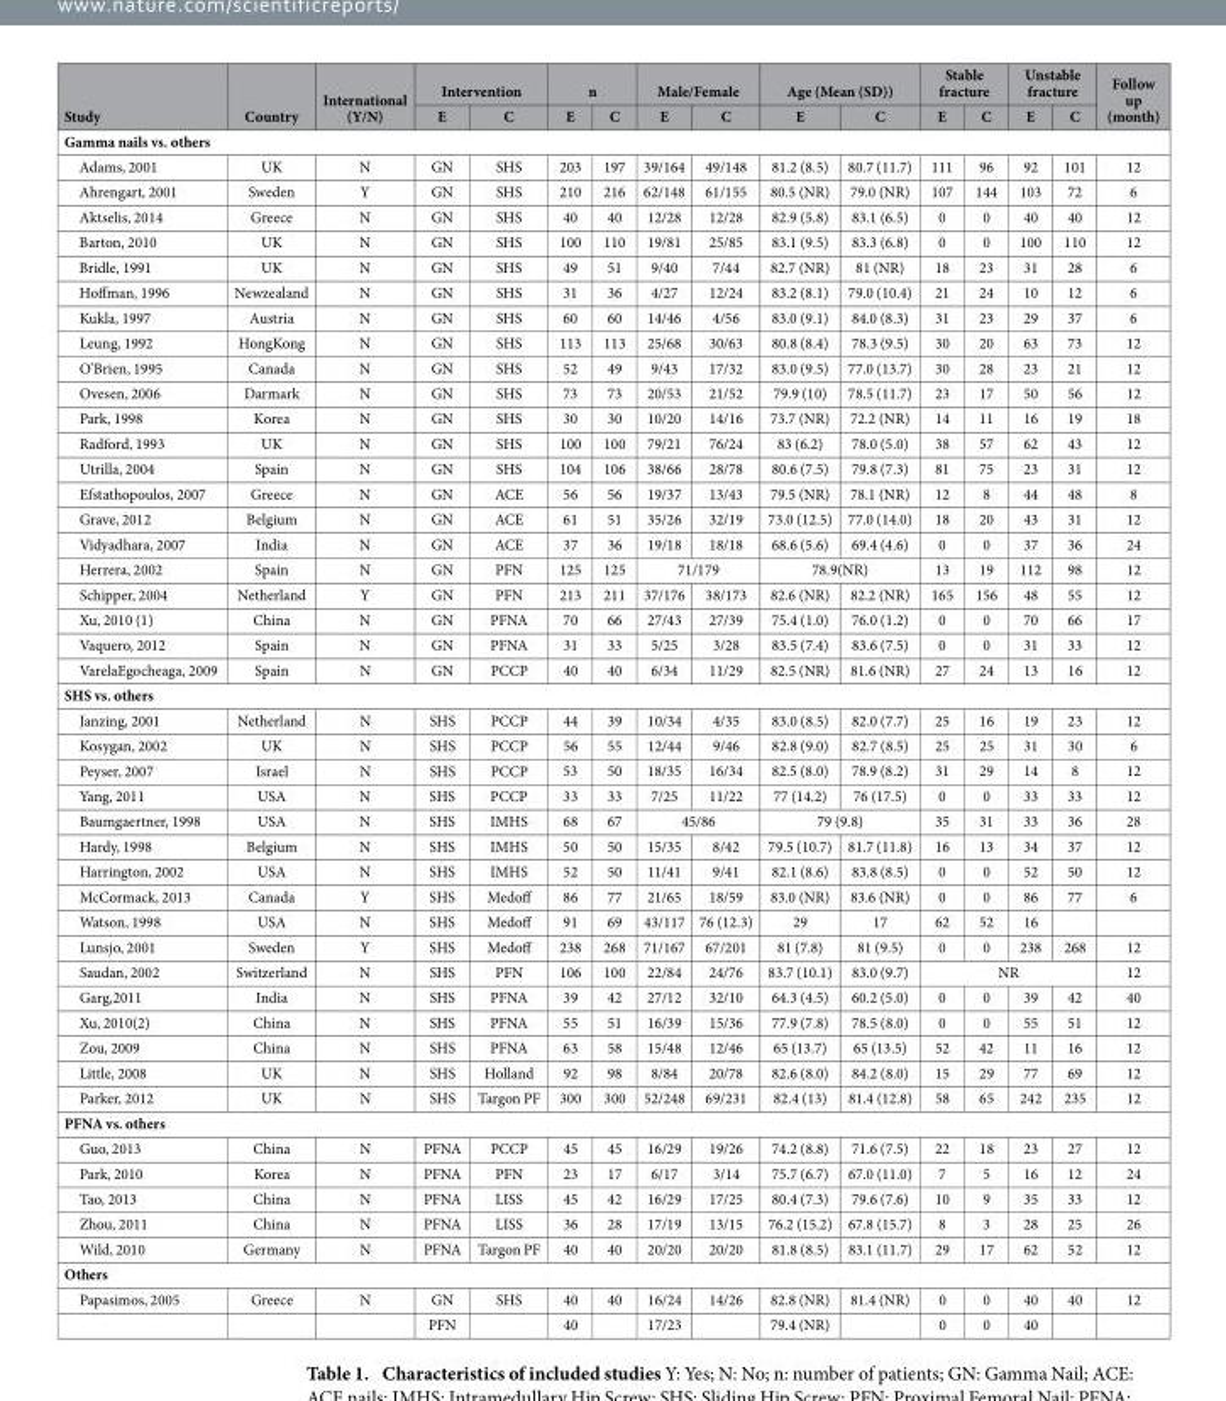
<table><thead><tr><td rowspan="2">Study</td><td rowspan="2">Country</td><td rowspan="2">International (Y/N)</td><td colspan="2">Intervention</td><td colspan="2">n</td><td colspan="2">Male/Female</td><td colspan="2">Age (Mean (SD))</td><td colspan="2">Stable fracture</td><td colspan="2">Unstable fracture</td><td rowspan="2">Follow up (month)</td></tr><tr><td>E</td><td>C</td><td>E</td><td>C</td><td>E</td><td>C</td><td>E</td><td>C</td><td>E</td><td>C</td><td>E</td><td>C</td></tr></thead><tbody><tr><td colspan="16">Gamma nails vs. others</td></tr><tr><td>Adams, 2001</td><td>UK</td><td>N</td><td>GN</td><td>SHS</td><td>203</td><td>197</td><td>39/164</td><td>49/148</td><td>81.2 (8.5)</td><td>80.7 (11.7)</td><td>111</td><td>96</td><td>92</td><td>101</td><td>12</td></tr><tr><td>Ahrengart, 2001</td><td>Sweden</td><td>Y</td><td>GN</td><td>SHS</td><td>210</td><td>216</td><td>62/148</td><td>61/155</td><td>80.5 (NR)</td><td>79.0 (NR)</td><td>107</td><td>144</td><td>103</td><td>72</td><td>6</td></tr><tr><td>Aktselis, 2014</td><td>Greece</td><td>N</td><td>GN</td><td>SHS</td><td>40</td><td>40</td><td>12/28</td><td>12/28</td><td>82.9 (5.8)</td><td>83.1 (6.5)</td><td>0</td><td>0</td><td>40</td><td>40</td><td>12</td></tr><tr><td>Barton, 2010</td><td>UK</td><td>N</td><td>GN</td><td>SHS</td><td>100</td><td>110</td><td>19/81</td><td>25/85</td><td>83.1 (9.5)</td><td>83.3 (6.8)</td><td>0</td><td>0</td><td>100</td><td>110</td><td>12</td></tr><tr><td>Bridle, 1991</td><td>UK</td><td>N</td><td>GN</td><td>SHS</td><td>49</td><td>51</td><td>9/40</td><td>7/44</td><td>82.7 (NR)</td><td>81 (NR)</td><td>18</td><td>23</td><td>31</td><td>28</td><td>6</td></tr><tr><td>Hoffman, 1996</td><td>Newzealand</td><td>N</td><td>GN</td><td>SHS</td><td>31</td><td>36</td><td>4/27</td><td>12/24</td><td>83.2 (8.1)</td><td>79.0 (10.4)</td><td>21</td><td>24</td><td>10</td><td>12</td><td>6</td></tr><tr><td>Kukla, 1997</td><td>Austria</td><td>N</td><td>GN</td><td>SHS</td><td>60</td><td>60</td><td>14/46</td><td>4/56</td><td>83.0 (9.1)</td><td>84.0 (8.3)</td><td>31</td><td>23</td><td>29</td><td>37</td><td>6</td></tr><tr><td>Leung, 1992</td><td>HongKong</td><td>N</td><td>GN</td><td>SHS</td><td>113</td><td>113</td><td>25/68</td><td>30/63</td><td>80.8 (8.4)</td><td>78.3 (9.5)</td><td>30</td><td>20</td><td>63</td><td>73</td><td>12</td></tr><tr><td>O’Brien, 1995</td><td>Canada</td><td>N</td><td>GN</td><td>SHS</td><td>52</td><td>49</td><td>9/43</td><td>17/32</td><td>83.0 (9.5)</td><td>77.0 (13.7)</td><td>30</td><td>28</td><td>23</td><td>21</td><td>12</td></tr><tr><td>Ovesen, 2006</td><td>Darmark</td><td>N</td><td>GN</td><td>SHS</td><td>73</td><td>73</td><td>20/53</td><td>21/52</td><td>79.9 (10)</td><td>78.5 (11.7)</td><td>23</td><td>17</td><td>50</td><td>56</td><td>12</td></tr><tr><td>Park, 1998</td><td>Korea</td><td>N</td><td>GN</td><td>SHS</td><td>30</td><td>30</td><td>10/20</td><td>14/16</td><td>73.7 (NR)</td><td>72.2 (NR)</td><td>14</td><td>11</td><td>16</td><td>19</td><td>18</td></tr><tr><td>Radford, 1993</td><td>UK</td><td>N</td><td>GN</td><td>SHS</td><td>100</td><td>100</td><td>79/21</td><td>76/24</td><td>83 (6.2)</td><td>78.0 (5.0)</td><td>38</td><td>57</td><td>62</td><td>43</td><td>12</td></tr><tr><td>Utrilla, 2004</td><td>Spain</td><td>N</td><td>GN</td><td>SHS</td><td>104</td><td>106</td><td>38/66</td><td>28/78</td><td>80.6 (7.5)</td><td>79.8 (7.3)</td><td>81</td><td>75</td><td>23</td><td>31</td><td>12</td></tr><tr><td>Efstathopoulos, 2007</td><td>Greece</td><td>N</td><td>GN</td><td>ACE</td><td>56</td><td>56</td><td>19/37</td><td>13/43</td><td>79.5 (NR)</td><td>78.1 (NR)</td><td>12</td><td>8</td><td>44</td><td>48</td><td>8</td></tr><tr><td>Grave, 2012</td><td>Belgium</td><td>N</td><td>GN</td><td>ACE</td><td>61</td><td>51</td><td>35/26</td><td>32/19</td><td>73.0 (12.5)</td><td>77.0 (14.0)</td><td>18</td><td>20</td><td>43</td><td>31</td><td>12</td></tr><tr><td>Vidyadhara, 2007</td><td>India</td><td>N</td><td>GN</td><td>ACE</td><td>37</td><td>36</td><td>19/18</td><td>18/18</td><td>68.6 (5.6)</td><td>69.4 (4.6)</td><td>0</td><td>0</td><td>37</td><td>36</td><td>24</td></tr><tr><td>Herrera, 2002</td><td>Spain</td><td>N</td><td>GN</td><td>PFN</td><td>125</td><td>125</td><td colspan="2">71/179</td><td colspan="2">78.9(NR)</td><td>13</td><td>19</td><td>112</td><td>98</td><td>12</td></tr><tr><td>Schipper, 2004</td><td>Netherland</td><td>Y</td><td>GN</td><td>PFN</td><td>213</td><td>211</td><td>37/176</td><td>38/173</td><td>82.6 (NR)</td><td>82.2 (NR)</td><td>165</td><td>156</td><td>48</td><td>55</td><td>12</td></tr><tr><td>Xu, 2010 (1)</td><td>China</td><td>N</td><td>GN</td><td>PFNA</td><td>70</td><td>66</td><td>27/43</td><td>27/39</td><td>75.4 (1.0)</td><td>76.0 (1.2)</td><td>0</td><td>0</td><td>70</td><td>66</td><td>17</td></tr><tr><td>Vaquero, 2012</td><td>Spain</td><td>N</td><td>GN</td><td>PFNA</td><td>31</td><td>33</td><td>5/25</td><td>3/28</td><td>83.5 (7.4)</td><td>83.6 (7.5)</td><td>0</td><td>0</td><td>31</td><td>33</td><td>12</td></tr><tr><td>VarelaEgocheaga, 2009</td><td>Spain</td><td>N</td><td>GN</td><td>PCCP</td><td>40</td><td>40</td><td>6/34</td><td>11/29</td><td>82.5 (NR)</td><td>81.6 (NR)</td><td>27</td><td>24</td><td>13</td><td>16</td><td>12</td></tr><tr><td colspan="16">SHS vs. others</td></tr><tr><td>Janzing, 2001</td><td>Netherland</td><td>N</td><td>SHS</td><td>PCCP</td><td>44</td><td>39</td><td>10/34</td><td>4/35</td><td>83.0 (8.5)</td><td>82.0 (7.7)</td><td>25</td><td>16</td><td>19</td><td>23</td><td>12</td></tr><tr><td>Kosygan, 2002</td><td>UK</td><td>N</td><td>SHS</td><td>PCCP</td><td>56</td><td>55</td><td>12/44</td><td>9/46</td><td>82.8 (9.0)</td><td>82.7 (8.5)</td><td>25</td><td>25</td><td>31</td><td>30</td><td>6</td></tr><tr><td>Peyser, 2007</td><td>Israel</td><td>N</td><td>SHS</td><td>PCCP</td><td>53</td><td>50</td><td>18/35</td><td>16/34</td><td>82.5 (8.0)</td><td>78.9 (8.2)</td><td>31</td><td>29</td><td>14</td><td>8</td><td>12</td></tr><tr><td>Yang, 2011</td><td>USA</td><td>N</td><td>SHS</td><td>PCCP</td><td>33</td><td>33</td><td>7/25</td><td>11/22</td><td>77 (14.2)</td><td>76 (17.5)</td><td>0</td><td>0</td><td>33</td><td>33</td><td>12</td></tr><tr><td>Baumgaertner, 1998</td><td>USA</td><td>N</td><td>SHS</td><td>IMHS</td><td>68</td><td>67</td><td colspan="2">45/86</td><td colspan="2">79 (9.8)</td><td>35</td><td>31</td><td>33</td><td>36</td><td>28</td></tr><tr><td>Hardy, 1998</td><td>Belgium</td><td>N</td><td>SHS</td><td>IMHS</td><td>50</td><td>50</td><td>15/35</td><td>8/42</td><td>79.5 (10.7)</td><td>81.7 (11.8)</td><td>16</td><td>13</td><td>34</td><td>37</td><td>12</td></tr><tr><td>Harrington, 2002</td><td>USA</td><td>N</td><td>SHS</td><td>IMHS</td><td>52</td><td>50</td><td>11/41</td><td>9/41</td><td>82.1 (8.6)</td><td>83.8 (8.5)</td><td>0</td><td>0</td><td>52</td><td>50</td><td>12</td></tr><tr><td>McCormack, 2013</td><td>Canada</td><td>Y</td><td>SHS</td><td>Medoff</td><td>86</td><td>77</td><td>21/65</td><td>18/59</td><td>83.0 (NR)</td><td>83.6 (NR)</td><td>0</td><td>0</td><td>86</td><td>77</td><td>6</td></tr><tr><td>Watson, 1998</td><td>USA</td><td>N</td><td>SHS</td><td>Medoff</td><td>91</td><td>69</td><td>43/117</td><td>76 (12.3)</td><td>29</td><td>17</td><td>62</td><td>52</td><td>16</td><td></td><td></td></tr><tr><td>Lunsjo, 2001</td><td>Sweden</td><td>Y</td><td>SHS</td><td>Medoff</td><td>238</td><td>268</td><td>71/167</td><td>67/201</td><td>81 (7.8)</td><td>81 (9.5)</td><td>0</td><td>0</td><td>238</td><td>268</td><td>12</td></tr><tr><td>Saudan, 2002</td><td>Switzerland</td><td>N</td><td>SHS</td><td>PFN</td><td>106</td><td>100</td><td>22/84</td><td>24/76</td><td>83.7 (10.1)</td><td>83.0 (9.7)</td><td colspan="4">NR</td><td>12</td></tr><tr><td>Garg,2011</td><td>India</td><td>N</td><td>SHS</td><td>PFNA</td><td>39</td><td>42</td><td>27/12</td><td>32/10</td><td>64.3 (4.5)</td><td>60.2 (5.0)</td><td>0</td><td>0</td><td>39</td><td>42</td><td>40</td></tr><tr><td>Xu, 2010(2)</td><td>China</td><td>N</td><td>SHS</td><td>PFNA</td><td>55</td><td>51</td><td>16/39</td><td>15/36</td><td>77.9 (7.8)</td><td>78.5 (8.0)</td><td>0</td><td>0</td><td>55</td><td>51</td><td>12</td></tr><tr><td>Zou, 2009</td><td>China</td><td>N</td><td>SHS</td><td>PFNA</td><td>63</td><td>58</td><td>15/48</td><td>12/46</td><td>65 (13.7)</td><td>65 (13.5)</td><td>52</td><td>42</td><td>11</td><td>16</td><td>12</td></tr><tr><td>Little, 2008</td><td>UK</td><td>N</td><td>SHS</td><td>Holland</td><td>92</td><td>98</td><td>8/84</td><td>20/78</td><td>82.6 (8.0)</td><td>84.2 (8.0)</td><td>15</td><td>29</td><td>77</td><td>69</td><td>12</td></tr><tr><td>Parker, 2012</td><td>UK</td><td>N</td><td>SHS</td><td>Targon PF</td><td>300</td><td>300</td><td>52/248</td><td>69/231</td><td>82.4 (13)</td><td>81.4 (12.8)</td><td>58</td><td>65</td><td>242</td><td>235</td><td>12</td></tr><tr><td colspan="16">PFNA vs. others</td></tr><tr><td>Guo, 2013</td><td>China</td><td>N</td><td>PFNA</td><td>PCCP</td><td>45</td><td>45</td><td>16/29</td><td>19/26</td><td>74.2 (8.8)</td><td>71.6 (7.5)</td><td>22</td><td>18</td><td>23</td><td>27</td><td>12</td></tr><tr><td>Park, 2010</td><td>Korea</td><td>N</td><td>PFNA</td><td>PFN</td><td>23</td><td>17</td><td>6/17</td><td>3/14</td><td>75.7 (6.7)</td><td>67.0 (11.0)</td><td>7</td><td>5</td><td>16</td><td>12</td><td>24</td></tr><tr><td>Tao, 2013</td><td>China</td><td>N</td><td>PFNA</td><td>LISS</td><td>45</td><td>42</td><td>16/29</td><td>17/25</td><td>80.4 (7.3)</td><td>79.6 (7.6)</td><td>10</td><td>9</td><td>35</td><td>33</td><td>12</td></tr><tr><td>Zhou, 2011</td><td>China</td><td>N</td><td>PFNA</td><td>LISS</td><td>36</td><td>28</td><td>17/19</td><td>13/15</td><td>76.2 (15.2)</td><td>67.8 (15.7)</td><td>8</td><td>3</td><td>28</td><td>25</td><td>26</td></tr><tr><td>Wild, 2010</td><td>Germany</td><td>N</td><td>PFNA</td><td>Targon PF</td><td>40</td><td>40</td><td>20/20</td><td>20/20</td><td>81.8 (8.5)</td><td>83.1 (11.7)</td><td>29</td><td>17</td><td>62</td><td>52</td><td>12</td></tr><tr><td colspan="16">Others</td></tr><tr><td rowspan="2">Papasimos, 2005</td><td>Greece</td><td>N</td><td>GN</td><td>SHS</td><td>40</td><td>40</td><td>16/24</td><td>14/26</td><td>82.8 (NR)</td><td>81.4 (NR)</td><td>0</td><td>0</td><td>40</td><td>40</td><td>12</td></tr><tr><td></td><td></td><td>PFN</td><td></td><td>40</td><td></td><td>17/23</td><td></td><td>79.4 (NR)</td><td></td><td>0</td><td>0</td><td>40</td><td></td><td></td></tr></tbody></table>